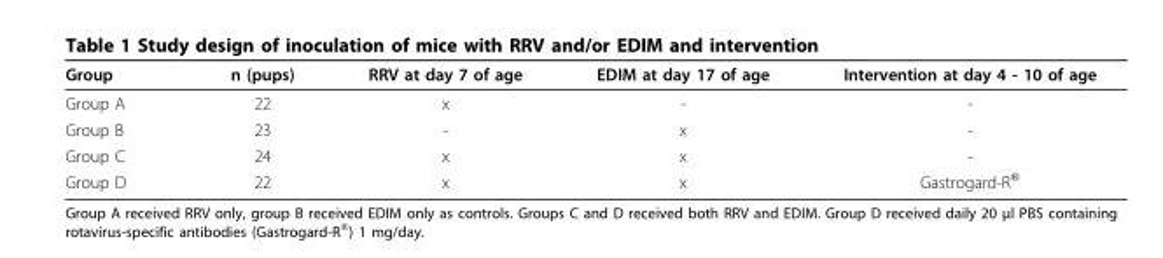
<table><thead><tr><td>Group</td><td>n (pups)</td><td>RRV at day 7 of age</td><td>EDIM at day 17 of age</td><td>Intervention at day 4 - 10 of age</td></tr></thead><tbody><tr><td>Group A</td><td>22</td><td>x</td><td>-</td><td>-</td></tr><tr><td>Group B</td><td>23</td><td>-</td><td>x</td><td>-</td></tr><tr><td>Group C</td><td>24</td><td>x</td><td>x</td><td>-</td></tr><tr><td>Group D</td><td>22</td><td>x</td><td>x</td><td>Gastrogard-R<sup>®</sup></td></tr></tbody></table>